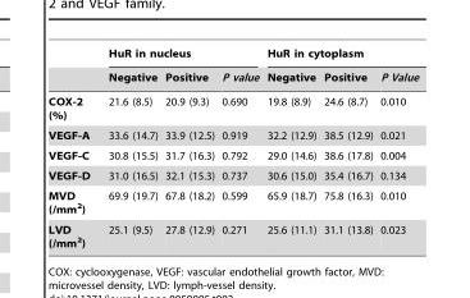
<table><thead><tr><td rowspan="2"></td><td colspan="3">HuR in nucleus</td><td colspan="3">HuR in cytoplasm</td></tr><tr><td>Negative</td><td>Positive</td><td>P value</td><td>Negative</td><td>Positive</td><td>P Value</td></tr></thead><tbody><tr><td>COX-2 (%)</td><td>21.6 (8.5)</td><td>20.9 (9.3)</td><td>0.690</td><td>19.8 (8.9)</td><td>24.6 (8.7)</td><td>0.010</td></tr><tr><td>VEGF-A</td><td>33.6 (14.7)</td><td>33.9 (12.5)</td><td>0.919</td><td>32.2 (12.9)</td><td>38.5 (12.9)</td><td>0.021</td></tr><tr><td>VEGF-C</td><td>30.8 (15.5)</td><td>31.7 (16.3)</td><td>0.792</td><td>29.0 (14.6)</td><td>38.6 (17.8)</td><td>0.004</td></tr><tr><td>VEGF-D</td><td>31.0 (16.5)</td><td>32.1 (15.3)</td><td>0.737</td><td>30.6 (15.0)</td><td>35.4 (16.7)</td><td>0.134</td></tr><tr><td>MVD (/mm<sup>2</sup>)</td><td>69.9 (19.7)</td><td>67.8 (18.2)</td><td>0.599</td><td>65.9 (18.7)</td><td>75.8 (16.3)</td><td>0.010</td></tr><tr><td>LVD (/mm<sup>2</sup>)</td><td>25.1 (9.5)</td><td>27.8 (12.9)</td><td>0.271</td><td>25.6 (11.1)</td><td>31.1 (13.8)</td><td>0.023</td></tr></tbody></table>